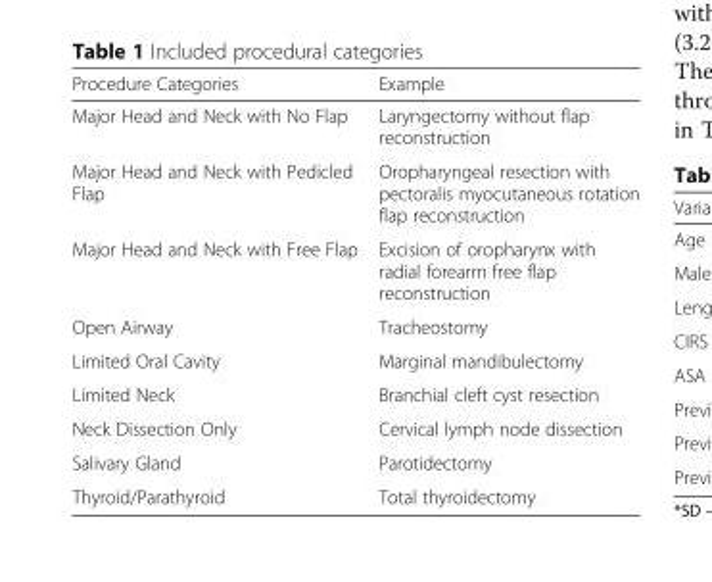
<table><thead><tr><td>Procedure Categories</td><td>Example</td></tr></thead><tbody><tr><td>Major Head and Neck with No Flap</td><td>Laryngectomy without flap reconstruction</td></tr><tr><td>Major Head and Neck with Pedicled Flap</td><td>Oropharyngeal resection with pectoralis myocutaneous rotation flap reconstruction</td></tr><tr><td>Major Head and Neck with Free Flap</td><td>Excision of oropharynx with radial forearm free flap reconstruction</td></tr><tr><td>Open Airway</td><td>Tracheostomy</td></tr><tr><td>Limited Oral Cavity</td><td>Marginal mandibulectomy</td></tr><tr><td>Limited Neck</td><td>Branchial cleft cyst resection</td></tr><tr><td>Neck Dissection Only</td><td>Cervical lymph node dissection</td></tr><tr><td>Salivary Gland</td><td>Parotidectomy</td></tr><tr><td>Thyroid/Parathyroid</td><td>Total thyroidectomy</td></tr></tbody></table>